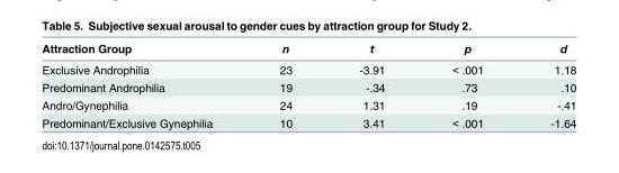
<table><thead><tr><td>Attraction Group</td><td>n</td><td>t</td><td>p</td><td>d</td></tr></thead><tbody><tr><td>Exclusive Androphilia</td><td>23</td><td>-3.91</td><td>&lt; .001</td><td>1.18</td></tr><tr><td>Predominant Androphilia</td><td>19</td><td>-.34</td><td>.73</td><td>.10</td></tr><tr><td>Andro/Gynephilia</td><td>24</td><td>1.31</td><td>.19</td><td>-.41</td></tr><tr><td>Predominant/Exclusive Gynephilia</td><td>10</td><td>3.41</td><td>&lt; .001</td><td>-1.64</td></tr></tbody></table>